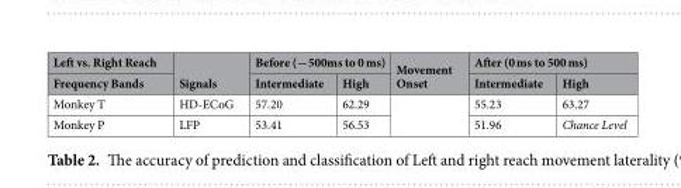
<table><thead><tr><td rowspan="2">Left vs. Right Reach Frequency Bands</td><td rowspan="2">Signals</td><td colspan="2">Before (−500ms to 0 ms)</td><td rowspan="2">Movement Onset</td><td colspan="2">After (0 ms to 500 ms)</td></tr><tr><td>Intermediate</td><td>High</td><td>Intermediate</td><td>High</td></tr></thead><tbody><tr><td>Monkey T</td><td>HD-ECoG</td><td>57.20</td><td>62.29</td><td rowspan="2"></td><td>55.23</td><td>63.27</td></tr><tr><td>Monkey P</td><td>LFP</td><td>53.41</td><td>56.53</td><td>51.96</td><td>Chance Level</td></tr></tbody></table>